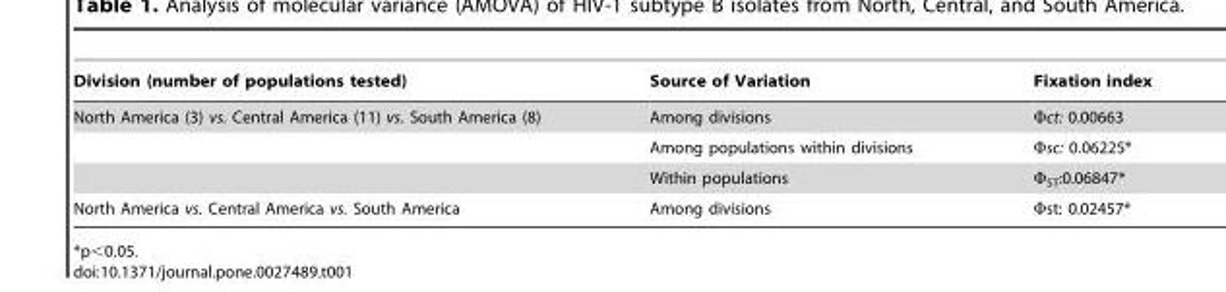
<table><thead><tr><td>Division (number of populations tested)</td><td>Source of Variation</td><td>Fixation index</td></tr></thead><tbody><tr><td rowspan="3">North America (3) vs. Central America (11) vs. South America (8)</td><td>Among divisions</td><td>Φct: 0.00663</td></tr><tr><td>Among populations within divisions</td><td>Φsc: 0.06225*</td></tr><tr><td>Within populations</td><td>Φ<sub>ST</sub>:0.06847*</td></tr><tr><td>North America vs. Central America vs. South America</td><td>Among divisions</td><td>Φst: 0.02457*</td></tr></tbody></table>